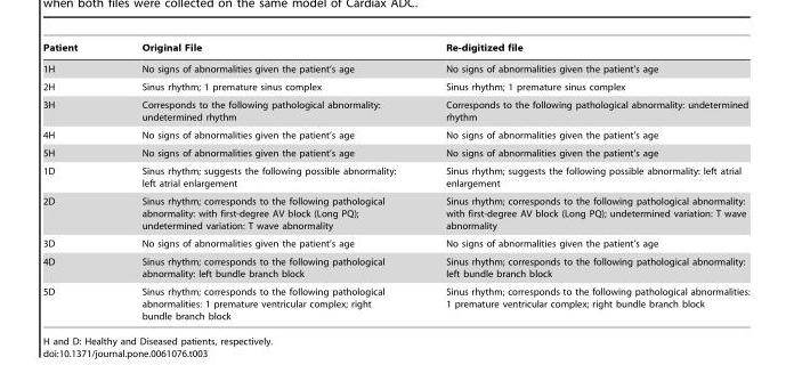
<table><thead><tr><td>Patient</td><td>Original File</td><td>Re-digitized file</td></tr></thead><tbody><tr><td>1H</td><td>No signs of abnormalities given the patient’s age</td><td>No signs of abnormalities given the patient’s age</td></tr><tr><td>2H</td><td>Sinus rhythm; 1 premature sinus complex</td><td>Sinus rhythm; 1 premature sinus complex</td></tr><tr><td>3H</td><td>Corresponds to the following pathological abnormality: undetermined rhythm</td><td>Corresponds to the following pathological abnormality: undetermined rhythm</td></tr><tr><td>4H</td><td>No signs of abnormalities given the patient’s age</td><td>No signs of abnormalities given the patient’s age</td></tr><tr><td>5H</td><td>No signs of abnormalities given the patient’s age</td><td>No signs of abnormalities given the patient’s age</td></tr><tr><td>1D</td><td>Sinus rhythm; suggests the following possible abnormality: left atrial enlargement</td><td>Sinus rhythm; suggests the following possible abnormality: left atrial enlargement</td></tr><tr><td>2D</td><td>Sinus rhythm; corresponds to the following pathological abnormality: with first-degree AV block (Long PQ); undetermined variation: T wave abnormality</td><td>Sinus rhythm; corresponds to the following pathological abnormality: with first-degree AV block (Long PQ); undetermined variation: T wave abnormality</td></tr><tr><td>3D</td><td>No signs of abnormalities given the patient’s age</td><td>No signs of abnormalities given the patient’s age</td></tr><tr><td>4D</td><td>Sinus rhythm; corresponds to the following pathological abnormality: left bundle branch block</td><td>Sinus rhythm; corresponds to the following pathological abnormality: left bundle branch block</td></tr><tr><td>5D</td><td>Sinus rhythm; corresponds to the following pathological abnormalities: 1 premature ventricular complex; right bundle branch block</td><td>Sinus rhythm; corresponds to the following pathological abnormalities: 1 premature ventricular complex; right bundle branch block</td></tr></tbody></table>